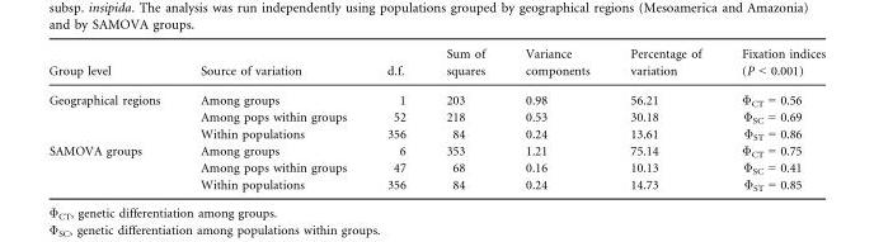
<table><thead><tr><td>Group level</td><td>Source of variation</td><td>d.f.</td><td>Sum of squares</td><td>Variance components</td><td>Percentage of variation</td><td>Fixation indices (P &lt; 0.001)</td></tr></thead><tbody><tr><td rowspan="3">Geographical regions</td><td>Among groups</td><td>1</td><td>203</td><td>0.98</td><td>56.21</td><td>Φ<sub>CT</sub> = 0.56</td></tr><tr><td>Among pops within groups</td><td>52</td><td>218</td><td>0.53</td><td>30.18</td><td>Φ<sub>SC</sub> = 0.69</td></tr><tr><td>Within populations</td><td>356</td><td>84</td><td>0.24</td><td>13.61</td><td>Φ<sub>ST</sub> = 0.86</td></tr><tr><td rowspan="3">SAMOVA groups</td><td>Among groups</td><td>6</td><td>353</td><td>1.21</td><td>75.14</td><td>Φ<sub>CT</sub> = 0.75</td></tr><tr><td>Among pops within groups</td><td>47</td><td>68</td><td>0.16</td><td>10.13</td><td>Φ<sub>SC</sub> = 0.41</td></tr><tr><td>Within populations</td><td>356</td><td>84</td><td>0.24</td><td>14.73</td><td>Φ<sub>ST</sub> = 0.85</td></tr></tbody></table>